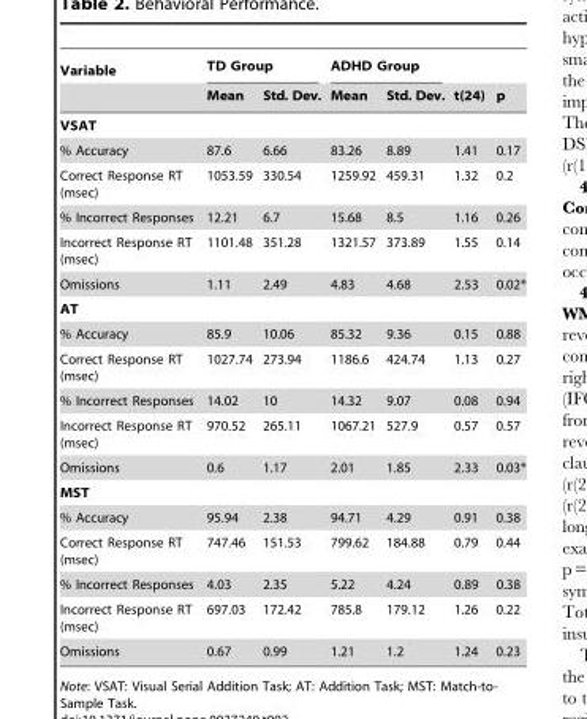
<table><thead><tr><td rowspan="2">Variable</td><td colspan="2">TD Group</td><td colspan="2">ADHD Group</td><td rowspan="2">t(24)</td><td rowspan="2">p</td></tr><tr><td>Mean</td><td>Std. Dev.</td><td>Mean</td><td>Std. Dev.</td></tr></thead><tbody><tr><td colspan="7">VSAT</td></tr><tr><td>% Accuracy</td><td>87.6</td><td>6.66</td><td>83.26</td><td>8.89</td><td>1.41</td><td>0.17</td></tr><tr><td>Correct Response RT (msec)</td><td>1053.59</td><td>330.54</td><td>1259.92</td><td>459.31</td><td>1.32</td><td>0.2</td></tr><tr><td>% Incorrect Responses</td><td>12.21</td><td>6.7</td><td>15.68</td><td>8.5</td><td>1.16</td><td>0.26</td></tr><tr><td>Incorrect Response RT (msec)</td><td>1101.48</td><td>351.28</td><td>1321.57</td><td>373.89</td><td>1.55</td><td>0.14</td></tr><tr><td>Omissions</td><td>1.11</td><td>2.49</td><td>4.83</td><td>4.68</td><td>2.53</td><td>0.02*</td></tr><tr><td colspan="7">AT</td></tr><tr><td>% Accuracy</td><td>85.9</td><td>10.06</td><td>85.32</td><td>9.36</td><td>0.15</td><td>0.88</td></tr><tr><td>Correct Response RT (msec)</td><td>1027.74</td><td>273.94</td><td>1186.6</td><td>424.74</td><td>1.13</td><td>0.27</td></tr><tr><td>% Incorrect Responses</td><td>14.02</td><td>10</td><td>14.32</td><td>9.07</td><td>0.08</td><td>0.94</td></tr><tr><td>Incorrect Response RT (msec)</td><td>970.52</td><td>265.11</td><td>1067.21</td><td>527.9</td><td>0.57</td><td>0.57</td></tr><tr><td>Omissions</td><td>0.6</td><td>1.17</td><td>2.01</td><td>1.85</td><td>2.33</td><td>0.03*</td></tr><tr><td colspan="7">MST</td></tr><tr><td>% Accuracy</td><td>95.94</td><td>2.38</td><td>94.71</td><td>4.29</td><td>0.91</td><td>0.38</td></tr><tr><td>Correct Response RT (msec)</td><td>747.46</td><td>151.53</td><td>799.62</td><td>184.88</td><td>0.79</td><td>0.44</td></tr><tr><td>% Incorrect Responses</td><td>4.03</td><td>2.35</td><td>5.22</td><td>4.24</td><td>0.89</td><td>0.38</td></tr><tr><td>Incorrect Response RT (msec)</td><td>697.03</td><td>172.42</td><td>785.8</td><td>179.12</td><td>1.26</td><td>0.22</td></tr><tr><td>Omissions</td><td>0.67</td><td>0.99</td><td>1.21</td><td>1.2</td><td>1.24</td><td>0.23</td></tr></tbody></table>